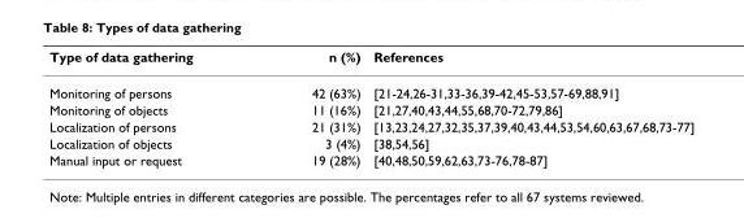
<table><thead><tr><td>Type of data gathering</td><td>n (%)</td><td>References</td></tr></thead><tbody><tr><td>Monitoring of persons</td><td>42 (63%)</td><td>[21-24,26-31,33-36,39-42,45-53,57-69,88,91]</td></tr><tr><td>Monitoring of objects</td><td>11 (16%)</td><td>[21,27,40,43,44,55,68,70-72,79,86]</td></tr><tr><td>Localization of persons</td><td>21 (31%)</td><td>[13,23,24,27,32,35,37,39,40,43,44,53,54,60,63,67,68,73-77]</td></tr><tr><td>Localization of objects</td><td>3 (4%)</td><td>[38,54,56]</td></tr><tr><td>Manual input or request</td><td>19 (28%)</td><td>[40,48,50,59,62,63,73-76,78-87]</td></tr></tbody></table>